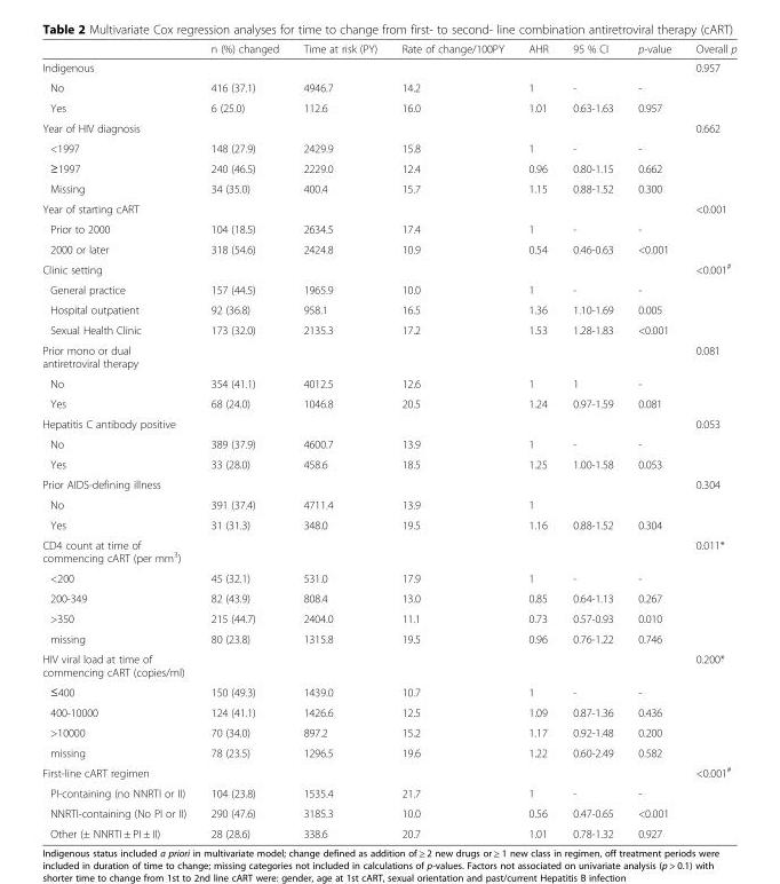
<table><thead><tr><td></td><td>n (%) changed</td><td>Time at risk (PY)</td><td>Rate of change/100PY</td><td>AHR</td><td>95 % CI</td><td>p-value</td><td>Overall p</td></tr></thead><tbody><tr><td>Indigenous</td><td></td><td></td><td></td><td></td><td></td><td></td><td>0.957</td></tr><tr><td>No</td><td>416 (37.1)</td><td>4946.7</td><td>14.2</td><td>1</td><td>-</td><td>-</td><td></td></tr><tr><td>Yes</td><td>6 (25.0)</td><td>112.6</td><td>16.0</td><td>1.01</td><td>0.63-1.63</td><td>0.957</td><td></td></tr><tr><td>Year of HIV diagnosis</td><td></td><td></td><td></td><td></td><td></td><td></td><td>0.662</td></tr><tr><td>&lt;1997</td><td>148 (27.9)</td><td>2429.9</td><td>15.8</td><td>1</td><td>-</td><td>-</td><td></td></tr><tr><td>≥1997</td><td>240 (46.5)</td><td>2229.0</td><td>12.4</td><td>0.96</td><td>0.80-1.15</td><td>0.662</td><td></td></tr><tr><td>Missing</td><td>34 (35.0)</td><td>400.4</td><td>15.7</td><td>1.15</td><td>0.88-1.52</td><td>0.300</td><td></td></tr><tr><td>Year of starting cART</td><td></td><td></td><td></td><td></td><td></td><td></td><td>&lt;0.001</td></tr><tr><td>Prior to 2000</td><td>104 (18.5)</td><td>2634.5</td><td>17.4</td><td>1</td><td>-</td><td>-</td><td></td></tr><tr><td>2000 or later</td><td>318 (54.6)</td><td>2424.8</td><td>10.9</td><td>0.54</td><td>0.46-0.63</td><td>&lt;0.001</td><td></td></tr><tr><td>Clinic setting</td><td></td><td></td><td></td><td></td><td></td><td></td><td>&lt;0.001<sup>#</sup></td></tr><tr><td>General practice</td><td>157 (44.5)</td><td>1965.9</td><td>10.0</td><td>1</td><td>-</td><td>-</td><td></td></tr><tr><td>Hospital outpatient</td><td>92 (36.8)</td><td>958.1</td><td>16.5</td><td>1.36</td><td>1.10-1.69</td><td>0.005</td><td></td></tr><tr><td>Sexual Health Clinic</td><td>173 (32.0)</td><td>2135.3</td><td>17.2</td><td>1.53</td><td>1.28-1.83</td><td>&lt;0.001</td><td></td></tr><tr><td colspan="3">Prior mono or dual antiretroviral therapy</td><td></td><td></td><td></td><td></td><td>0.081</td></tr><tr><td>No</td><td>354 (41.1)</td><td>4012.5</td><td>12.6</td><td>1</td><td>1</td><td>-</td><td></td></tr><tr><td>Yes</td><td>68 (24.0)</td><td>1046.8</td><td>20.5</td><td>1.24</td><td>0.97-1.59</td><td>0.081</td><td></td></tr><tr><td>Hepatitis C antibody positive</td><td></td><td></td><td></td><td></td><td></td><td></td><td>0.053</td></tr><tr><td>No</td><td>389 (37.9)</td><td>4600.7</td><td>13.9</td><td>1</td><td>-</td><td>-</td><td></td></tr><tr><td>Yes</td><td>33 (28.0)</td><td>458.6</td><td>18.5</td><td>1.25</td><td>1.00-1.58</td><td>0.053</td><td></td></tr><tr><td>Prior AIDS-defining illness</td><td></td><td></td><td></td><td></td><td></td><td></td><td>0.304</td></tr><tr><td>No</td><td>391 (37.4)</td><td>4711.4</td><td>13.9</td><td>1</td><td></td><td></td><td></td></tr><tr><td>Yes</td><td>31 (31.3)</td><td>348.0</td><td>19.5</td><td>1.16</td><td>0.88-1.52</td><td>0.304</td><td></td></tr><tr><td colspan="4">CD4 count at time of commencing cART (per mm<sup>3</sup>)</td><td></td><td></td><td></td><td>0.011*</td></tr><tr><td>&lt;200</td><td>45 (32.1)</td><td>531.0</td><td>17.9</td><td>1</td><td>-</td><td>-</td><td></td></tr><tr><td>200-349</td><td>82 (43.9)</td><td>808.4</td><td>13.0</td><td>0.85</td><td>0.64-1.13</td><td>0.267</td><td></td></tr><tr><td>&gt;350</td><td>215 (44.7)</td><td>2404.0</td><td>11.1</td><td>0.73</td><td>0.57-0.93</td><td>0.010</td><td></td></tr><tr><td>missing</td><td>80 (23.8)</td><td>1315.8</td><td>19.5</td><td>0.96</td><td>0.76-1.22</td><td>0.746</td><td></td></tr><tr><td colspan="4">HIV viral load at time of commencing cART (copies/ml)</td><td></td><td></td><td></td><td>0.200*</td></tr><tr><td>≤400</td><td>150 (49.3)</td><td>1439.0</td><td>10.7</td><td>1</td><td>-</td><td>-</td><td></td></tr><tr><td>400-10000</td><td>124 (41.1)</td><td>1426.6</td><td>12.5</td><td>1.09</td><td>0.87-1.36</td><td>0.436</td><td></td></tr><tr><td>&gt;10000</td><td>70 (34.0)</td><td>897.2</td><td>15.2</td><td>1.17</td><td>0.92-1.48</td><td>0.200</td><td></td></tr><tr><td>missing</td><td>78 (23.5)</td><td>1296.5</td><td>19.6</td><td>1.22</td><td>0.60-2.49</td><td>0.582</td><td></td></tr><tr><td>First-line cART regimen</td><td></td><td></td><td></td><td></td><td></td><td></td><td>&lt;0.001<sup>#</sup></td></tr><tr><td>PI-containing (no NNRTI or II)</td><td>104 (23.8)</td><td>1535.4</td><td>21.7</td><td>1</td><td>-</td><td>-</td><td></td></tr><tr><td>NNRTI-containing (No PI or II)</td><td>290 (47.6)</td><td>3185.3</td><td>10.0</td><td>0.56</td><td>0.47-0.65</td><td>&lt;0.001</td><td></td></tr><tr><td>Other (± NNRTI ± PI ± II)</td><td>28 (28.6)</td><td>338.6</td><td>20.7</td><td>1.01</td><td>0.78-1.32</td><td>0.927</td><td></td></tr></tbody></table>